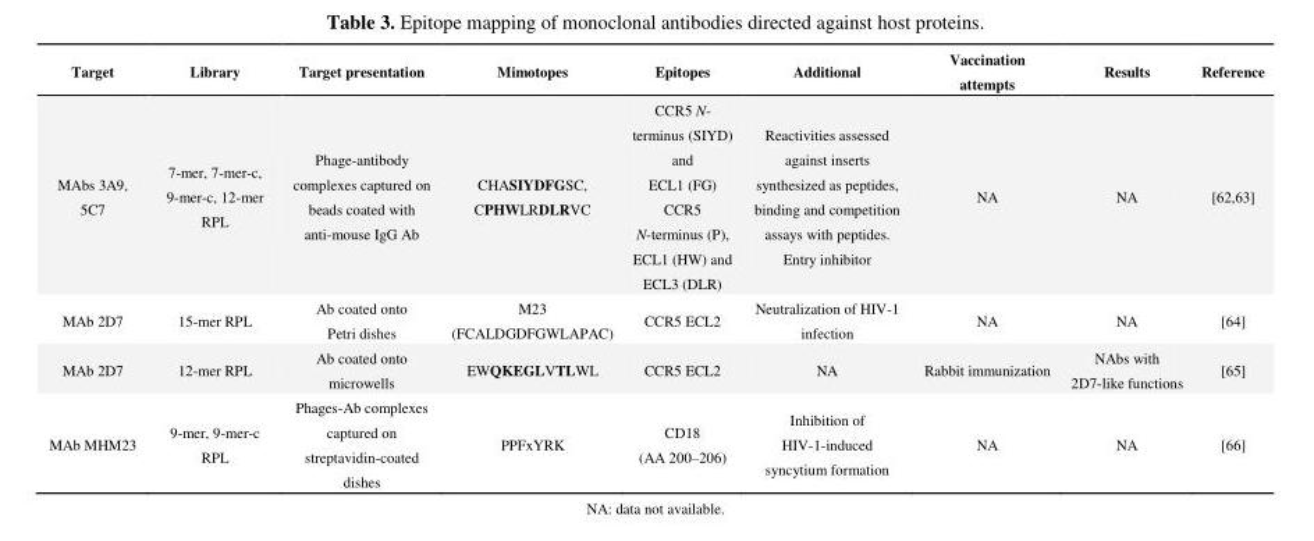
<table><thead><tr><td>Target</td><td>Library</td><td>Target presentation</td><td>Mimotopes</td><td>Epitopes</td><td>Additional</td><td>Vaccination attempts</td><td>Results</td><td>Reference</td></tr></thead><tbody><tr><td>MAbs 3A9, 5C7</td><td>7-mer, 7-mer-c, 9-mer-c, 12-mer RPL</td><td>Phage-antibody complexes captured on beads coated with anti-mouse IgG Ab</td><td>CHASIYDFGSC, CPHWLRDLRVC</td><td>CCR5 N- terminus (SIYD) and ECL1 (FG) CCR5 N-terminus (P), ECL1 (HW) and ECL3 (DLR)</td><td>Reactivities assessed against inserts synthesized as peptides, binding and competition assays with peptides. Entry inhibitor</td><td>NA</td><td>NA</td><td>[62,63]</td></tr><tr><td>MAb 2D7</td><td>15-mer RPL</td><td>Ab coated onto Petri dishes</td><td>M23 (FCALDGDFGWLAPAC)</td><td>CCR5 ECL2</td><td>Neutralization of HIV-1 infection</td><td>NA</td><td>NA</td><td>[64]</td></tr><tr><td>MAb 2D7</td><td>12-mer RPL</td><td>Ab coated onto microwells</td><td>EWQKEGLVTLWL</td><td>CCR5 ECL2</td><td>NA</td><td>Rabbit immunization</td><td>NAbs with 2D7-like functions</td><td>[65]</td></tr><tr><td>MAb MHM23</td><td>9-mer, 9-mer-c RPL</td><td>Phages-Ab complexes captured on streptavidin-coated dishes</td><td>PPFxYRK</td><td>CD18 (AA 200–206)</td><td>Inhibition of HIV-1-induced syncytium formation</td><td>NA</td><td>NA</td><td>[66]</td></tr></tbody></table>